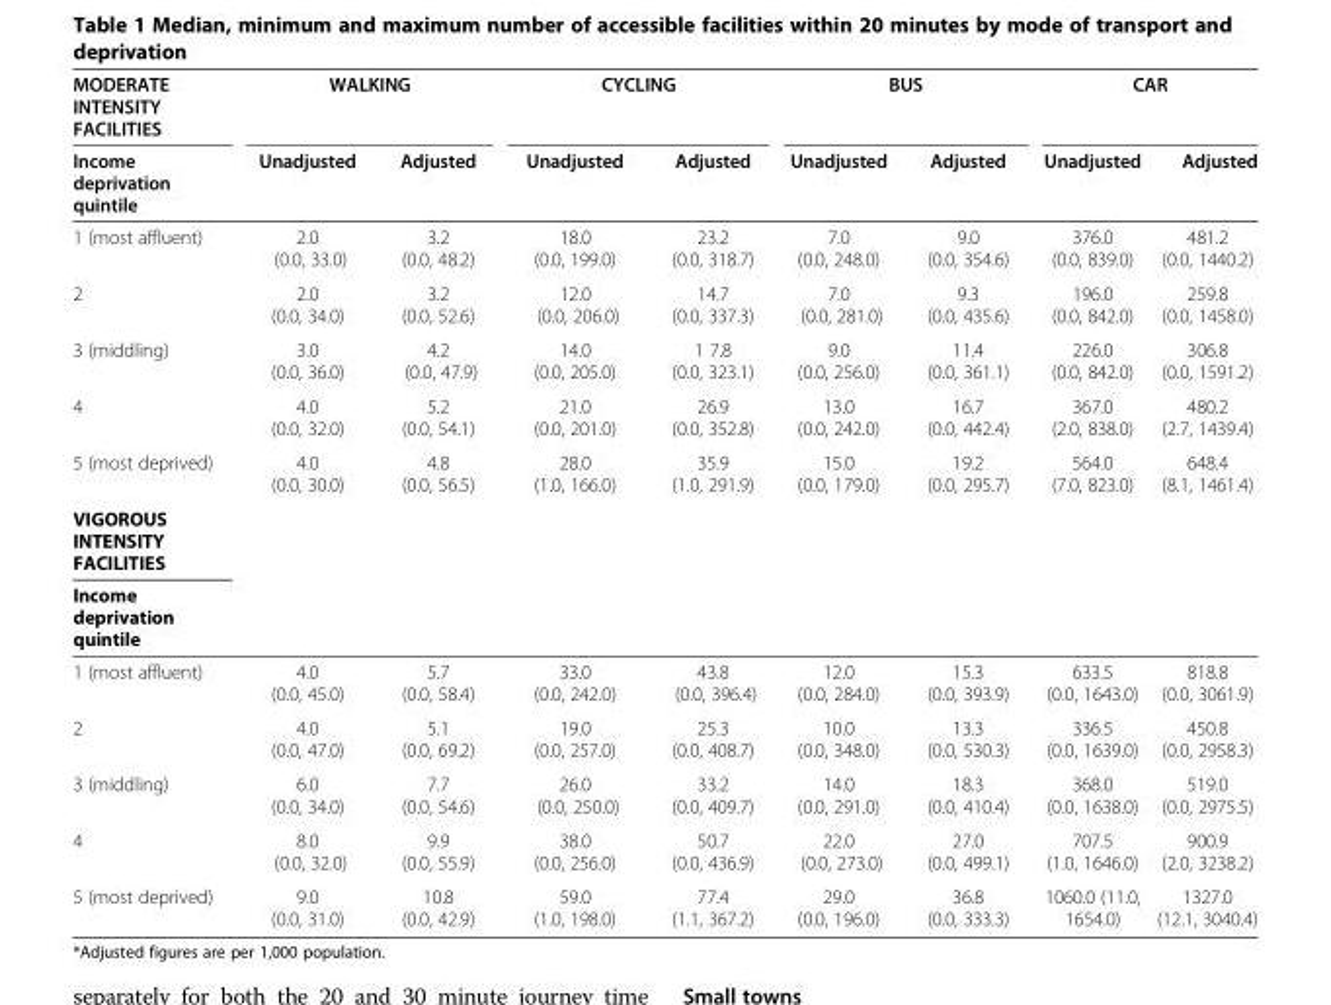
<table><thead><tr><td rowspan="2">MODERATE INTENSITY FACILITIES Income deprivation quintile</td><td colspan="2">WALKING</td><td colspan="2">CYCLING</td><td colspan="2">BUS</td><td colspan="2">CAR</td></tr><tr><td>Unadjusted</td><td>Adjusted</td><td>Unadjusted</td><td>Adjusted</td><td>Unadjusted</td><td>Adjusted</td><td>Unadjusted</td><td>Adjusted</td></tr></thead><tbody><tr><td>1 (most affluent)</td><td>2.0 (0.0, 33.0)</td><td>3.2 (0.0, 48.2)</td><td>18.0 (0.0, 199.0)</td><td>23.2 (0.0, 318.7)</td><td>7.0 (0.0, 248.0)</td><td>9.0 (0.0, 354.6)</td><td>376.0 (0.0, 839.0)</td><td>481.2 (0.0, 1440.2)</td></tr><tr><td>2</td><td>2.0 (0.0, 34.0)</td><td>3.2 (0.0, 52.6)</td><td>12.0 (0.0, 206.0)</td><td>14.7 (0.0, 337.3)</td><td>7.0 (0.0, 281.0)</td><td>9.3 (0.0, 435.6)</td><td>196.0 (0.0, 842.0)</td><td>259.8 (0.0, 1458.0)</td></tr><tr><td>3 (middling)</td><td>3.0 (0.0, 36.0)</td><td>4.2 (0.0, 47.9)</td><td>14.0 (0.0, 205.0)</td><td>1 7.8 (0.0, 323.1)</td><td>9.0 (0.0, 256.0)</td><td>11.4 (0.0, 361.1)</td><td>226.0 (0.0, 842.0)</td><td>306.8 (0.0, 1591.2)</td></tr><tr><td>4</td><td>4.0 (0.0, 32.0)</td><td>5.2 (0.0, 54.1)</td><td>21.0 (0.0, 201.0)</td><td>26.9 (0.0, 352.8)</td><td>13.0 (0.0, 242.0)</td><td>16.7 (0.0, 442.4)</td><td>367.0 (2.0, 838.0)</td><td>480.2 (2.7, 1439.4)</td></tr><tr><td>5 (most deprived)</td><td>4.0 (0.0, 30.0)</td><td>4.8 (0.0, 56.5)</td><td>28.0 (1.0, 166.0)</td><td>35.9 (1.0, 291.9)</td><td>15.0 (0.0, 179.0)</td><td>19.2 (0.0, 295.7)</td><td>564.0 (7.0, 823.0)</td><td>648.4 (8.1, 1461.4)</td></tr><tr><td colspan="9">VIGOROUS INTENSITY FACILITIES</td></tr><tr><td colspan="9">Income deprivation quintile</td></tr><tr><td>1 (most affluent)</td><td>4.0 (0.0, 45.0)</td><td>5.7 (0.0, 58.4)</td><td>33.0 (0.0, 242.0)</td><td>43.8 (0.0, 396.4)</td><td>12.0 (0.0, 284.0)</td><td>15.3 (0.0, 393.9)</td><td>633.5 (0.0, 1643.0)</td><td>818.8 (0.0, 3061.9)</td></tr><tr><td>2</td><td>4.0 (0.0, 47.0)</td><td>5.1 (0.0, 69.2)</td><td>19.0 (0.0, 257.0)</td><td>25.3 (0.0, 408.7)</td><td>10.0 (0.0, 348.0)</td><td>13.3 (0.0, 530.3)</td><td>336.5 (0.0, 1639.0)</td><td>450.8 (0.0, 2958.3)</td></tr><tr><td>3 (middling)</td><td>6.0 (0.0, 34.0)</td><td>7.7 (0.0, 54.6)</td><td>26.0 (0.0, 250.0)</td><td>33.2 (0.0, 409.7)</td><td>14.0 (0.0, 291.0)</td><td>18.3 (0.0, 410.4)</td><td>368.0 (0.0, 1638.0)</td><td>519.0 (0.0, 2975.5)</td></tr><tr><td>4</td><td>8.0 (0.0, 32.0)</td><td>9.9 (0.0, 55.9)</td><td>38.0 (0.0, 256.0)</td><td>50.7 (0.0, 436.9)</td><td>22.0 (0.0, 273.0)</td><td>27.0 (0.0, 499.1)</td><td>707.5 (1.0, 1646.0)</td><td>900.9 (2.0, 3238.2)</td></tr><tr><td>5 (most deprived)</td><td>9.0 (0.0, 31.0)</td><td>10.8 (0.0, 42.9)</td><td>59.0 (1.0, 198.0)</td><td>77.4 (1.1, 367.2)</td><td>29.0 (0.0, 196.0)</td><td>36.8 (0.0, 333.3)</td><td>1060.0 (11.0, 1654.0)</td><td>1327.0 (12.1, 3040.4)</td></tr></tbody></table>